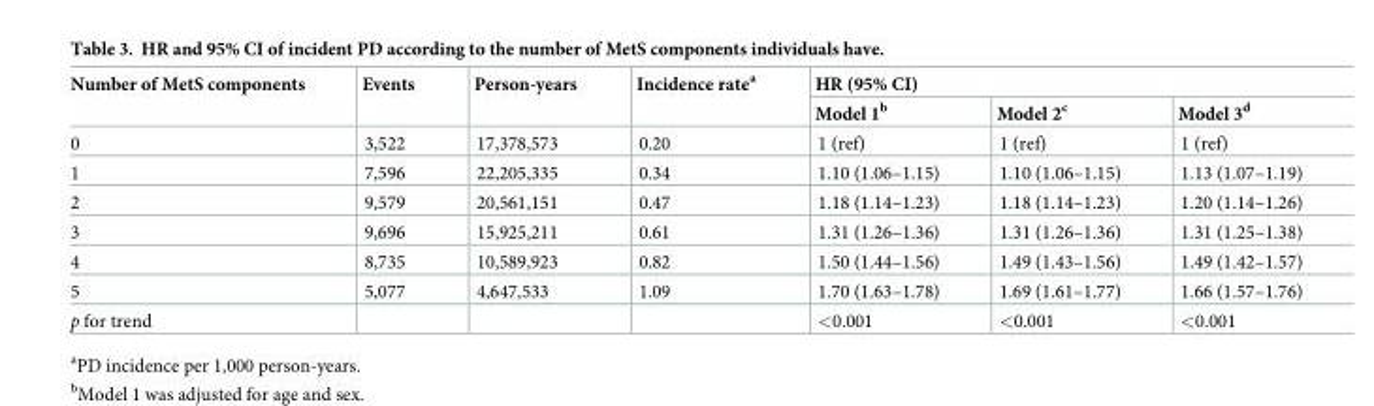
<table><thead><tr><td rowspan="2">Number of MetS components</td><td rowspan="2">Events</td><td rowspan="2">Person-years</td><td rowspan="2">Incidence rate<sup>a</sup></td><td colspan="3">HR (95% CI)</td></tr><tr><td>Model 1<sup>b</sup></td><td>Model 2<sup>c</sup></td><td>Model 3<sup>d</sup></td></tr></thead><tbody><tr><td>0</td><td>3,522</td><td>17,378,573</td><td>0.20</td><td>1 (ref)</td><td>1 (ref)</td><td>1 (ref)</td></tr><tr><td>1</td><td>7,596</td><td>22,205,335</td><td>0.34</td><td>1.10 (1.06–1.15)</td><td>1.10 (1.06–1.15)</td><td>1.13 (1.07–1.19)</td></tr><tr><td>2</td><td>9,579</td><td>20,561,151</td><td>0.47</td><td>1.18 (1.14–1.23)</td><td>1.18 (1.14–1.23)</td><td>1.20 (1.14–1.26)</td></tr><tr><td>3</td><td>9,696</td><td>15,925,211</td><td>0.61</td><td>1.31 (1.26–1.36)</td><td>1.31 (1.26–1.36)</td><td>1.31 (1.25–1.38)</td></tr><tr><td>4</td><td>8,735</td><td>10,589,923</td><td>0.82</td><td>1.50 (1.44–1.56)</td><td>1.49 (1.43–1.56)</td><td>1.49 (1.42–1.57)</td></tr><tr><td>5</td><td>5,077</td><td>4,647,533</td><td>1.09</td><td>1.70 (1.63–1.78)</td><td>1.69 (1.61–1.77)</td><td>1.66 (1.57–1.76)</td></tr><tr><td>p for trend</td><td></td><td></td><td></td><td>&lt;0.001</td><td>&lt;0.001</td><td>&lt;0.001</td></tr></tbody></table>